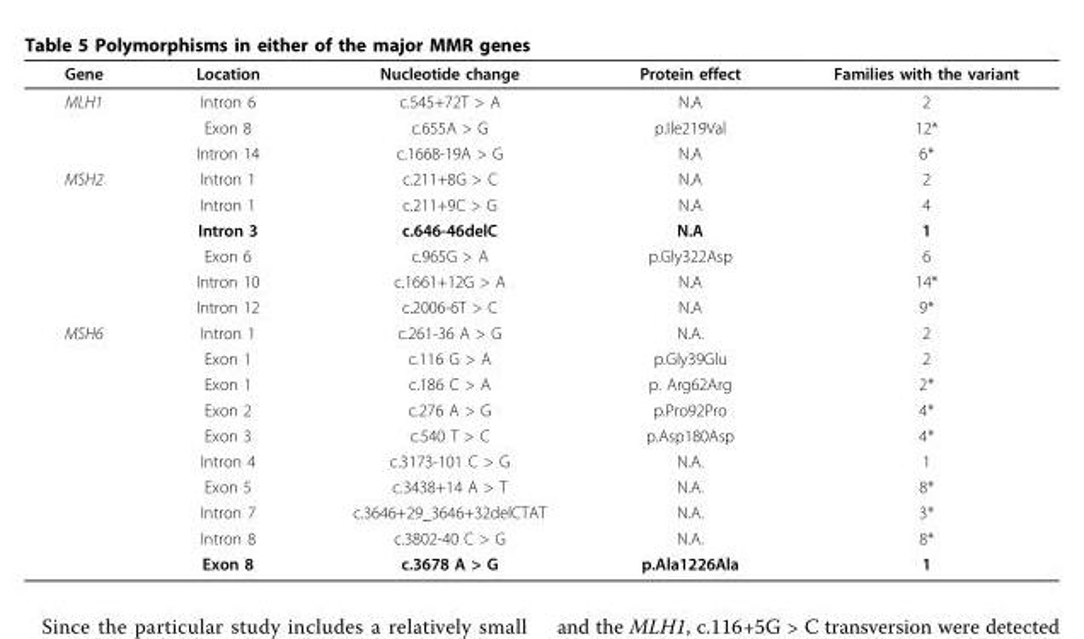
<table><thead><tr><td>Gene</td><td>Location</td><td>Nucleotide change</td><td>Protein effect</td><td>Families with the variant</td></tr></thead><tbody><tr><td rowspan="3">MLH1</td><td>Intron 6</td><td>c.545+72T &gt; A</td><td>N.A</td><td>2</td></tr><tr><td>Exon 8</td><td>c.655A &gt; G</td><td>p.Ile219Val</td><td>12*</td></tr><tr><td>Intron 14</td><td>c.1668-19A &gt; G</td><td>N.A</td><td>6*</td></tr><tr><td rowspan="6">MSH2</td><td>Intron 1</td><td>c.211+8G &gt; C</td><td>N.A</td><td>2</td></tr><tr><td>Intron 1</td><td>c.211+9C &gt; G</td><td>N.A</td><td>4</td></tr><tr><td>Intron 3</td><td>c.646-46delC</td><td>N.A</td><td>1</td></tr><tr><td>Exon 6</td><td>c.965G &gt; A</td><td>p.Gly322Asp</td><td>6</td></tr><tr><td>Intron 10</td><td>c.1661+12G &gt; A</td><td>N.A</td><td>14*</td></tr><tr><td>Intron 12</td><td>c.2006-6T &gt; C</td><td>N.A</td><td>9*</td></tr><tr><td rowspan="10">MSH6</td><td>Intron 1</td><td>c.261-36 A &gt; G</td><td>N.A.</td><td>2</td></tr><tr><td>Exon 1</td><td>c.116 G &gt; A</td><td>p.Gly39Glu</td><td>2</td></tr><tr><td>Exon 1</td><td>c.186 C &gt; A</td><td>p. Arg62Arg</td><td>2*</td></tr><tr><td>Exon 2</td><td>c.276 A &gt; G</td><td>p.Pro92Pro</td><td>4*</td></tr><tr><td>Exon 3</td><td>c.540 T &gt; C</td><td>p.Asp180Asp</td><td>4*</td></tr><tr><td>Intron 4</td><td>c.3173-101 C &gt; G</td><td>N.A.</td><td>1</td></tr><tr><td>Exon 5</td><td>c.3438+14 A &gt; T</td><td>N.A.</td><td>8*</td></tr><tr><td>Intron 7</td><td>c.3646+29_3646+32delCTAT</td><td>N.A.</td><td>3*</td></tr><tr><td>Intron 8</td><td>c.3802-40 C &gt; G</td><td>N.A.</td><td>8*</td></tr><tr><td>Exon 8</td><td>c.3678 A &gt; G</td><td>p.Ala1226Ala</td><td>1</td></tr></tbody></table>